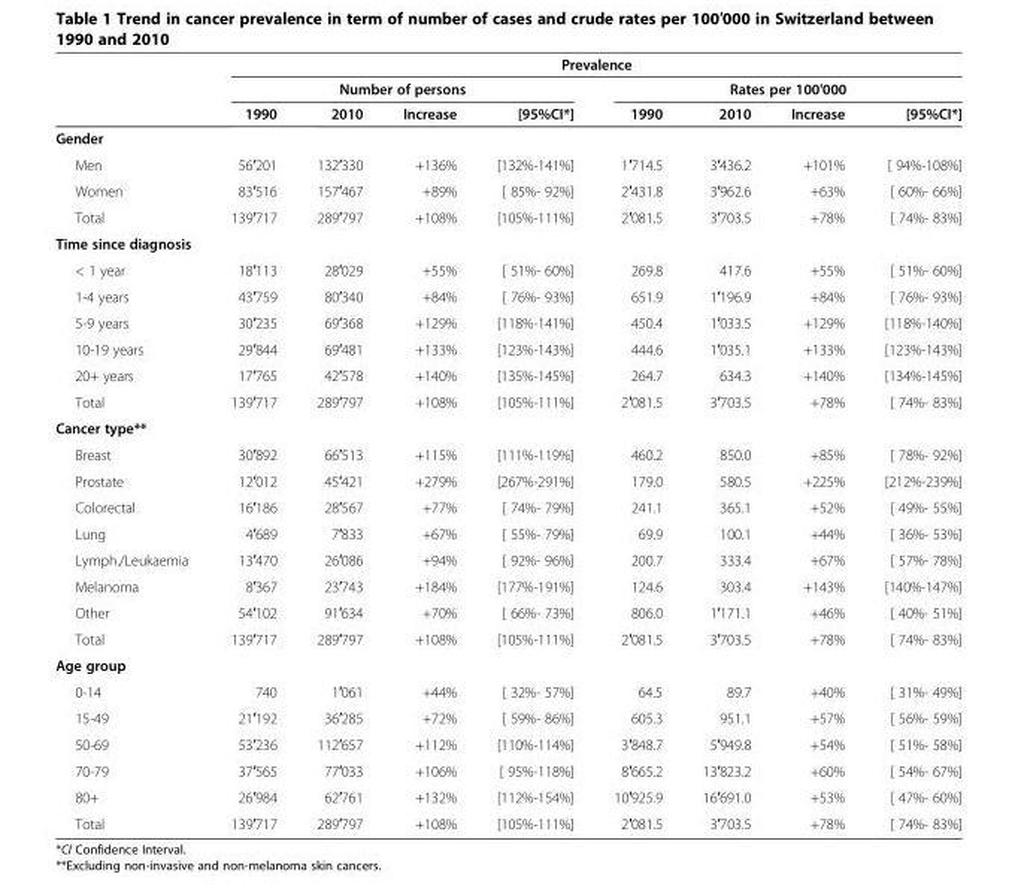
<table><thead><tr><td rowspan="3"></td><td colspan="8">Prevalence</td></tr><tr><td colspan="4">Number of persons</td><td colspan="4">Rates per 100&#x27;000</td></tr><tr><td>1990</td><td>2010</td><td>Increase</td><td>[95%CI*]</td><td>1990</td><td>2010</td><td>Increase</td><td>[95%CI*]</td></tr></thead><tbody><tr><td colspan="9">Gender</td></tr><tr><td>Men</td><td>56′201</td><td>132′330</td><td>+136%</td><td>[132%-141%]</td><td>1′714.5</td><td>3′436.2</td><td>+101%</td><td>[ 94%-108%]</td></tr><tr><td>Women</td><td>83′516</td><td>157′467</td><td>+89%</td><td>[ 85%- 92%]</td><td>2′431.8</td><td>3′962.6</td><td>+63%</td><td>[ 60%- 66%]</td></tr><tr><td>Total</td><td>139′717</td><td>289′797</td><td>+108%</td><td>[105%-111%]</td><td>2′081.5</td><td>3′703.5</td><td>+78%</td><td>[ 74%- 83%]</td></tr><tr><td colspan="9">Time since diagnosis</td></tr><tr><td>&lt; 1 year</td><td>18′113</td><td>28′029</td><td>+55%</td><td>[ 51%- 60%]</td><td>269.8</td><td>417.6</td><td>+55%</td><td>[ 51%- 60%]</td></tr><tr><td>1-4 years</td><td>43′759</td><td>80′340</td><td>+84%</td><td>[ 76%- 93%]</td><td>651.9</td><td>1′196.9</td><td>+84%</td><td>[ 76%- 93%]</td></tr><tr><td>5-9 years</td><td>30′235</td><td>69′368</td><td>+129%</td><td>[118%-141%]</td><td>450.4</td><td>1′033.5</td><td>+129%</td><td>[118%-140%]</td></tr><tr><td>10-19 years</td><td>29′844</td><td>69′481</td><td>+133%</td><td>[123%-143%]</td><td>444.6</td><td>1′035.1</td><td>+133%</td><td>[123%-143%]</td></tr><tr><td>20+ years</td><td>17′765</td><td>42′578</td><td>+140%</td><td>[135%-145%]</td><td>264.7</td><td>634.3</td><td>+140%</td><td>[134%-145%]</td></tr><tr><td>Total</td><td>139′717</td><td>289′797</td><td>+108%</td><td>[105%-111%]</td><td>2′081.5</td><td>3′703.5</td><td>+78%</td><td>[ 74%- 83%]</td></tr><tr><td colspan="9">Cancer type**</td></tr><tr><td>Breast</td><td>30′892</td><td>66′513</td><td>+115%</td><td>[111%-119%]</td><td>460.2</td><td>850.0</td><td>+85%</td><td>[ 78%- 92%]</td></tr><tr><td>Prostate</td><td>12′012</td><td>45′421</td><td>+279%</td><td>[267%-291%]</td><td>179.0</td><td>580.5</td><td>+225%</td><td>[212%-239%]</td></tr><tr><td>Colorectal</td><td>16′186</td><td>28′567</td><td>+77%</td><td>[ 74%- 79%]</td><td>241.1</td><td>365.1</td><td>+52%</td><td>[ 49%- 55%]</td></tr><tr><td>Lung</td><td>4′689</td><td>7′833</td><td>+67%</td><td>[ 55%- 79%]</td><td>69.9</td><td>100.1</td><td>+44%</td><td>[ 36%- 53%]</td></tr><tr><td>Lymph./Leukaemia</td><td>13′470</td><td>26′086</td><td>+94%</td><td>[ 92%- 96%]</td><td>200.7</td><td>333.4</td><td>+67%</td><td>[ 57%- 78%]</td></tr><tr><td>Melanoma</td><td>8′367</td><td>23′743</td><td>+184%</td><td>[177%-191%]</td><td>124.6</td><td>303.4</td><td>+143%</td><td>[140%-147%]</td></tr><tr><td>Other</td><td>54′102</td><td>91′634</td><td>+70%</td><td>[ 66%- 73%]</td><td>806.0</td><td>1′171.1</td><td>+46%</td><td>[ 40%- 51%]</td></tr><tr><td>Total</td><td>139′717</td><td>289′797</td><td>+108%</td><td>[105%-111%]</td><td>2′081.5</td><td>3′703.5</td><td>+78%</td><td>[ 74%- 83%]</td></tr><tr><td colspan="9">Age group</td></tr><tr><td>0-14</td><td>740</td><td>1′061</td><td>+44%</td><td>[ 32%- 57%]</td><td>64.5</td><td>89.7</td><td>+40%</td><td>[ 31%- 49%]</td></tr><tr><td>15-49</td><td>21′192</td><td>36′285</td><td>+72%</td><td>[ 59%- 86%]</td><td>605.3</td><td>951.1</td><td>+57%</td><td>[ 56%- 59%]</td></tr><tr><td>50-69</td><td>53′236</td><td>112′657</td><td>+112%</td><td>[110%-114%]</td><td>3′848.7</td><td>5′949.8</td><td>+54%</td><td>[ 51%- 58%]</td></tr><tr><td>70-79</td><td>37′565</td><td>77′033</td><td>+106%</td><td>[ 95%-118%]</td><td>8′665.2</td><td>13′823.2</td><td>+60%</td><td>[ 54%- 67%]</td></tr><tr><td>80+</td><td>26′984</td><td>62′761</td><td>+132%</td><td>[112%-154%]</td><td>10′925.9</td><td>16′691.0</td><td>+53%</td><td>[ 47%- 60%]</td></tr><tr><td>Total</td><td>139′717</td><td>289′797</td><td>+108%</td><td>[105%-111%]</td><td>2′081.5</td><td>3′703.5</td><td>+78%</td><td>[ 74%- 83%]</td></tr></tbody></table>